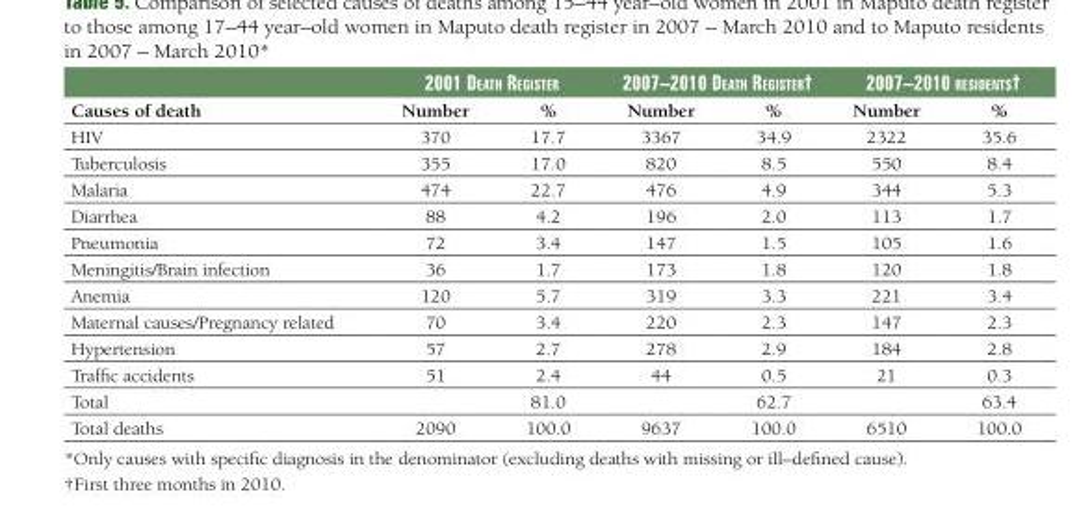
<table><thead><tr><td rowspan="2">Causes of death</td><td colspan="2">2001 Death register</td><td colspan="2">2007–2010 Death register†</td><td colspan="2">2007–2010 resiDents†</td></tr><tr><td>Number</td><td>%</td><td>Number</td><td>%</td><td>Number</td><td>%</td></tr></thead><tbody><tr><td>HIV</td><td>370</td><td>17.7</td><td>3367</td><td>34.9</td><td>2322</td><td>35.6</td></tr><tr><td>Tuberculosis</td><td>355</td><td>17.0</td><td>820</td><td>8.5</td><td>550</td><td>8.4</td></tr><tr><td>Malaria</td><td>474</td><td>22.7</td><td>476</td><td>4.9</td><td>344</td><td>5.3</td></tr><tr><td>Diarrhea</td><td>88</td><td>4.2</td><td>196</td><td>2.0</td><td>113</td><td>1.7</td></tr><tr><td>Pneumonia</td><td>72</td><td>3.4</td><td>147</td><td>1.5</td><td>105</td><td>1.6</td></tr><tr><td>Meningitis/Brain infection</td><td>36</td><td>1.7</td><td>173</td><td>1.8</td><td>120</td><td>1.8</td></tr><tr><td>Anemia</td><td>120</td><td>5.7</td><td>319</td><td>3.3</td><td>221</td><td>3.4</td></tr><tr><td>Maternal causes/Pregnancy related</td><td>70</td><td>3.4</td><td>220</td><td>2.3</td><td>147</td><td>2.3</td></tr><tr><td>Hypertension</td><td>57</td><td>2.7</td><td>278</td><td>2.9</td><td>184</td><td>2.8</td></tr><tr><td>Traffic accidents</td><td>51</td><td>2.4</td><td>44</td><td>0.5</td><td>21</td><td>0.3</td></tr><tr><td>Total</td><td></td><td>81.0</td><td></td><td>62.7</td><td></td><td>63.4</td></tr><tr><td>Total deaths</td><td>2090</td><td>100.0</td><td>9637</td><td>100.0</td><td>6510</td><td>100.0</td></tr></tbody></table>